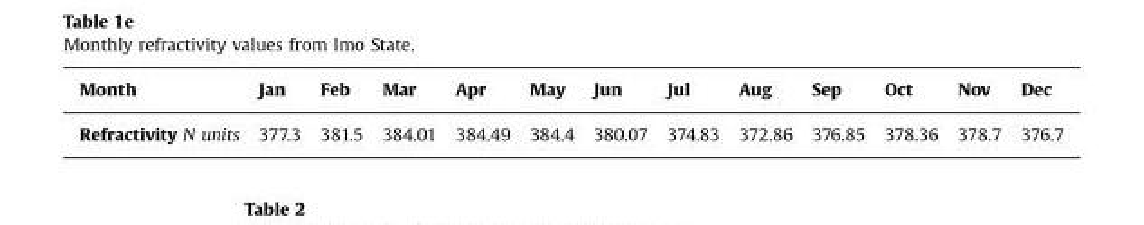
<table><thead><tr><td>Month</td><td>Jan</td><td>Feb</td><td>Mar</td><td>Apr</td><td>May</td><td>Jun</td><td>Jul</td><td>Aug</td><td>Sep</td><td>Oct</td><td>Nov</td><td>Dec</td></tr></thead><tbody><tr><td>Refractivity N units</td><td>377.3</td><td>381.5</td><td>384.01</td><td>384.49</td><td>384.4</td><td>380.07</td><td>374.83</td><td>372.86</td><td>376.85</td><td>378.36</td><td>378.7</td><td>376.7</td></tr></tbody></table>